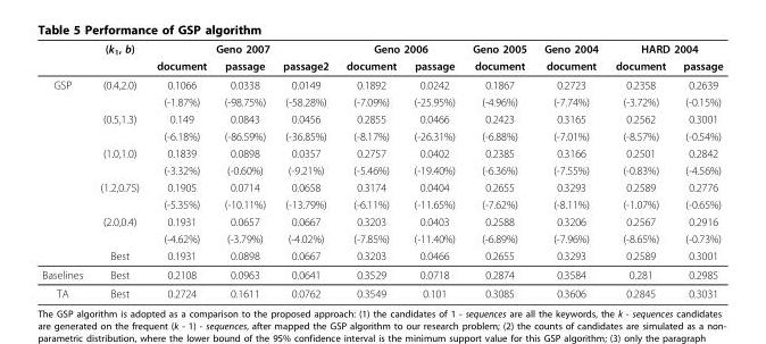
<table><thead><tr><td rowspan="2"></td><td rowspan="2">(k<sub>1</sub>, b)</td><td colspan="3">Geno 2007</td><td colspan="2">Geno 2006</td><td rowspan="2">Geno 2005 document</td><td rowspan="2">Geno 2004 document</td><td colspan="2">HARD 2004</td></tr><tr><td>document</td><td>passage</td><td>passage2</td><td>document</td><td>passage</td><td>document</td><td>passage</td></tr></thead><tbody><tr><td rowspan="11">GSP</td><td>(0.4,2.0)</td><td>0.1066</td><td>0.0338</td><td>0.0149</td><td>0.1892</td><td>0.0242</td><td>0.1867</td><td>0.2723</td><td>0.2358</td><td>0.2639</td></tr><tr><td></td><td>(-1.87%)</td><td>(-98.75%)</td><td>(-58.28%)</td><td>(-7.09%)</td><td>(-25.95%)</td><td>(-4.96%)</td><td>(-7.74%)</td><td>(-3.72%)</td><td>(-0.15%)</td></tr><tr><td>(0.5,1.3)</td><td>0.149</td><td>0.0843</td><td>0.0456</td><td>0.2855</td><td>0.0466</td><td>0.2423</td><td>0.3165</td><td>0.2562</td><td>0.3001</td></tr><tr><td></td><td>(-6.18%)</td><td>(-86.59%)</td><td>(-36.85%)</td><td>(-8.17%)</td><td>(-26.31%)</td><td>(-6.88%)</td><td>(-7.01%)</td><td>(-8.57%)</td><td>(-0.54%)</td></tr><tr><td>(1.0,1.0)</td><td>0.1839</td><td>0.0898</td><td>0.0357</td><td>0.2757</td><td>0.0402</td><td>0.2385</td><td>0.3166</td><td>0.2501</td><td>0.2842</td></tr><tr><td></td><td>(-3.32%)</td><td>(-0.60%)</td><td>(-9.21%)</td><td>(-5.46%)</td><td>(-19.40%)</td><td>(-6.36%)</td><td>(-7.55%)</td><td>(-0.83%)</td><td>(-4.56%)</td></tr><tr><td>(1.2,0.75)</td><td>0.1905</td><td>0.0714</td><td>0.0658</td><td>0.3174</td><td>0.0404</td><td>0.2655</td><td>0.3293</td><td>0.2589</td><td>0.2776</td></tr><tr><td></td><td>(-5.35%)</td><td>(-10.11%)</td><td>(-13.79%)</td><td>(-6.11%)</td><td>(-11.65%)</td><td>(-7.62%)</td><td>(-8.11%)</td><td>(-1.07%)</td><td>(-0.65%)</td></tr><tr><td>(2.0,0.4)</td><td>0.1931</td><td>0.0657</td><td>0.0667</td><td>0.3203</td><td>0.0403</td><td>0.2588</td><td>0.3206</td><td>0.2567</td><td>0.2916</td></tr><tr><td></td><td>(-4.62%)</td><td>(-3.79%)</td><td>(-4.02%)</td><td>(-7.85%)</td><td>(-11.40%)</td><td>(-6.89%)</td><td>(-7.96%)</td><td>(-8.65%)</td><td>(-0.73%)</td></tr><tr><td>Best</td><td>0.1931</td><td>0.0898</td><td>0.0667</td><td>0.3203</td><td>0.0466</td><td>0.2655</td><td>0.3293</td><td>0.2589</td><td>0.3001</td></tr><tr><td>Baselines</td><td>Best</td><td>0.2108</td><td>0.0963</td><td>0.0641</td><td>0.3529</td><td>0.0718</td><td>0.2874</td><td>0.3584</td><td>0.281</td><td>0.2985</td></tr><tr><td>TA</td><td>Best</td><td>0.2724</td><td>0.1611</td><td>0.0762</td><td>0.3549</td><td>0.101</td><td>0.3085</td><td>0.3606</td><td>0.2845</td><td>0.3031</td></tr></tbody></table>